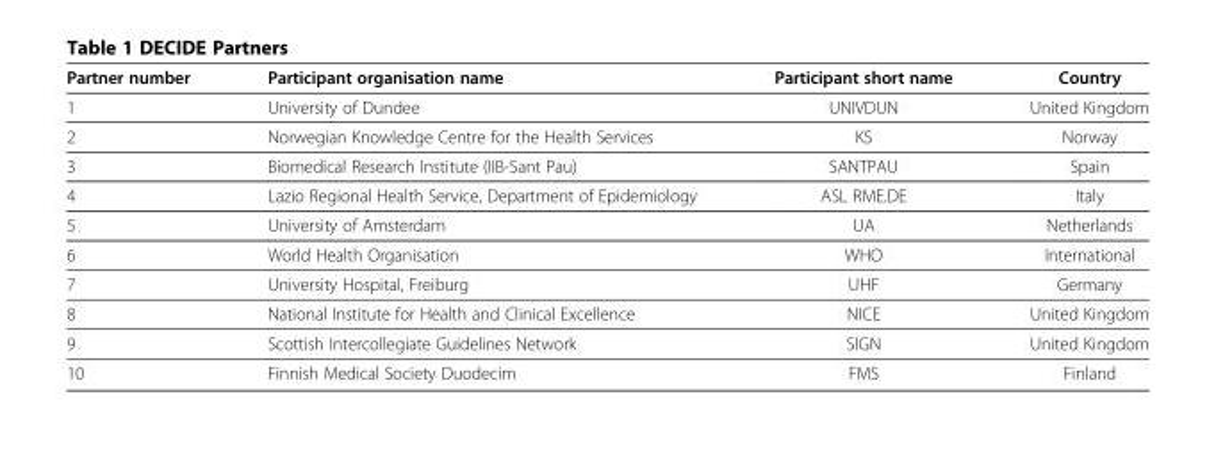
<table><thead><tr><td>Partner number</td><td>Participant organisation name</td><td>Participant short name</td><td>Country</td></tr></thead><tbody><tr><td>1</td><td>University of Dundee</td><td>UNIVDUN</td><td>United Kingdom</td></tr><tr><td>2</td><td>Norwegian Knowledge Centre for the Health Services</td><td>KS</td><td>Norway</td></tr><tr><td>3</td><td>Biomedical Research Institute (IIB-Sant Pau)</td><td>SANTPAU</td><td>Spain</td></tr><tr><td>4</td><td>Lazio Regional Health Service, Department of Epidemiology</td><td>ASL RME.DE</td><td>Italy</td></tr><tr><td>5</td><td>University of Amsterdam</td><td>UA</td><td>Netherlands</td></tr><tr><td>6</td><td>World Health Organisation</td><td>WHO</td><td>International</td></tr><tr><td>7</td><td>University Hospital, Freiburg</td><td>UHF</td><td>Germany</td></tr><tr><td>8</td><td>National Institute for Health and Clinical Excellence</td><td>NICE</td><td>United Kingdom</td></tr><tr><td>9</td><td>Scottish Intercollegiate Guidelines Network</td><td>SIGN</td><td>United Kingdom</td></tr><tr><td>10</td><td>Finnish Medical Society Duodecim</td><td>FMS</td><td>Finland</td></tr></tbody></table>